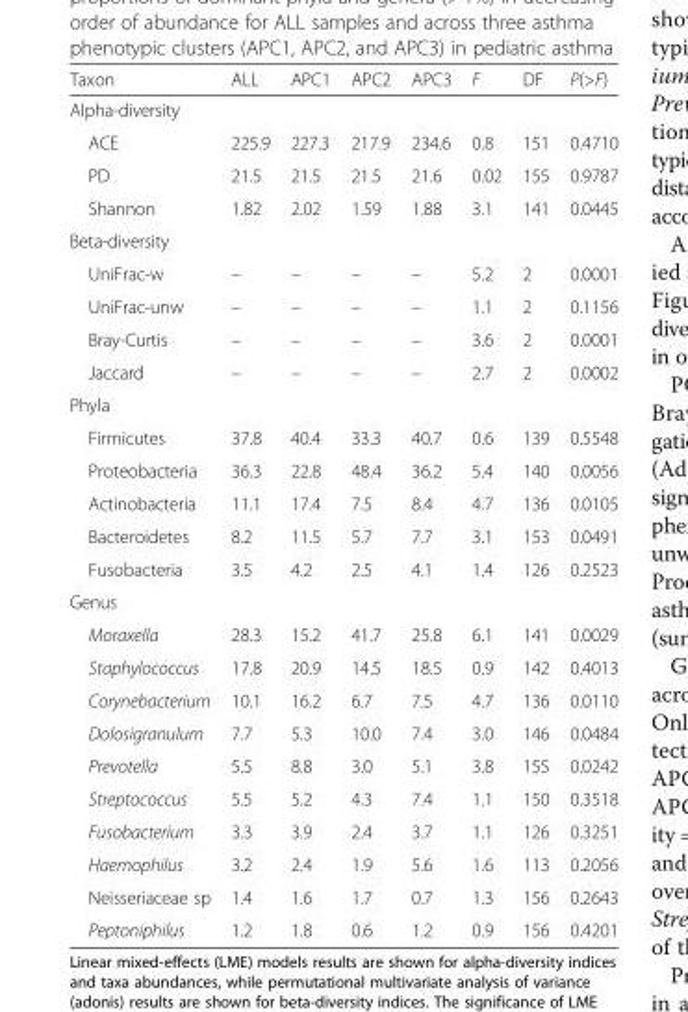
<table><thead><tr><td>Taxon</td><td>ALL</td><td>APC1</td><td>APC2</td><td>APC3</td><td>F</td><td>DF</td><td>P(&gt;F)</td></tr></thead><tbody><tr><td colspan="8">Alpha-diversity</td></tr><tr><td>ACE</td><td>225.9</td><td>227.3</td><td>217.9</td><td>234.6</td><td>0.8</td><td>151</td><td>0.4710</td></tr><tr><td>PD</td><td>21.5</td><td>21.5</td><td>21.5</td><td>21.6</td><td>0.02</td><td>155</td><td>0.9787</td></tr><tr><td>Shannon</td><td>1.82</td><td>2.02</td><td>1.59</td><td>1.88</td><td>3.1</td><td>141</td><td>0.0445</td></tr><tr><td colspan="8">Beta-diversity</td></tr><tr><td>UniFrac-w</td><td>–</td><td>–</td><td>–</td><td>–</td><td>5.2</td><td>2</td><td>0.0001</td></tr><tr><td>UniFrac-unw</td><td>–</td><td>–</td><td>–</td><td>–</td><td>1.1</td><td>2</td><td>0.1156</td></tr><tr><td>Bray-Curtis</td><td>–</td><td>–</td><td>–</td><td>–</td><td>3.6</td><td>2</td><td>0.0001</td></tr><tr><td>Jaccard</td><td>–</td><td>–</td><td>–</td><td>–</td><td>2.7</td><td>2</td><td>0.0002</td></tr><tr><td colspan="8">Phyla</td></tr><tr><td>Firmicutes</td><td>37.8</td><td>40.4</td><td>33.3</td><td>40.7</td><td>0.6</td><td>139</td><td>0.5548</td></tr><tr><td>Proteobacteria</td><td>36.3</td><td>22.8</td><td>48.4</td><td>36.2</td><td>5.4</td><td>140</td><td>0.0056</td></tr><tr><td>Actinobacteria</td><td>11.1</td><td>17.4</td><td>7.5</td><td>8.4</td><td>4.7</td><td>136</td><td>0.0105</td></tr><tr><td>Bacteroidetes</td><td>8.2</td><td>11.5</td><td>5.7</td><td>7.7</td><td>3.1</td><td>153</td><td>0.0491</td></tr><tr><td>Fusobacteria</td><td>3.5</td><td>4.2</td><td>2.5</td><td>4.1</td><td>1.4</td><td>126</td><td>0.2523</td></tr><tr><td colspan="8">Genus</td></tr><tr><td>Moraxella</td><td>28.3</td><td>15.2</td><td>41.7</td><td>25.8</td><td>6.1</td><td>141</td><td>0.0029</td></tr><tr><td>Staphylococcus</td><td>17.8</td><td>20.9</td><td>14.5</td><td>18.5</td><td>0.9</td><td>142</td><td>0.4013</td></tr><tr><td>Corynebacterium</td><td>10.1</td><td>16.2</td><td>6.7</td><td>7.5</td><td>4.7</td><td>136</td><td>0.0110</td></tr><tr><td>Dolosigranulum</td><td>7.7</td><td>5.3</td><td>10.0</td><td>7.4</td><td>3.0</td><td>146</td><td>0.0484</td></tr><tr><td>Prevotella</td><td>5.5</td><td>8.8</td><td>3.0</td><td>5.1</td><td>3.8</td><td>155</td><td>0.0242</td></tr><tr><td>Streptococcus</td><td>5.5</td><td>5.2</td><td>4.3</td><td>7.4</td><td>1.1</td><td>150</td><td>0.3518</td></tr><tr><td>Fusobacterium</td><td>3.3</td><td>3.9</td><td>2.4</td><td>3.7</td><td>1.1</td><td>126</td><td>0.3251</td></tr><tr><td>Haemophilus</td><td>3.2</td><td>2.4</td><td>1.9</td><td>5.6</td><td>1.6</td><td>113</td><td>0.2056</td></tr><tr><td>Neisseriaceae sp</td><td>1.4</td><td>1.6</td><td>1.7</td><td>0.7</td><td>1.3</td><td>156</td><td>0.2643</td></tr><tr><td>Peptoniphilus</td><td>1.2</td><td>1.8</td><td>0.6</td><td>1.2</td><td>0.9</td><td>156</td><td>0.4201</td></tr></tbody></table>